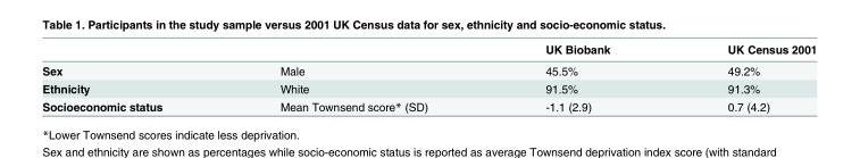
<table><thead><tr><td></td><td></td><td>UK Biobank</td><td>UK Census 2001</td></tr></thead><tbody><tr><td>Sex</td><td>Male</td><td>45.5%</td><td>49.2%</td></tr><tr><td>Ethnicity</td><td>White</td><td>91.5%</td><td>91.3%</td></tr><tr><td>Socioeconomic status</td><td>Mean Townsend score* (SD)</td><td>-1.1 (2.9)</td><td>0.7 (4.2)</td></tr></tbody></table>